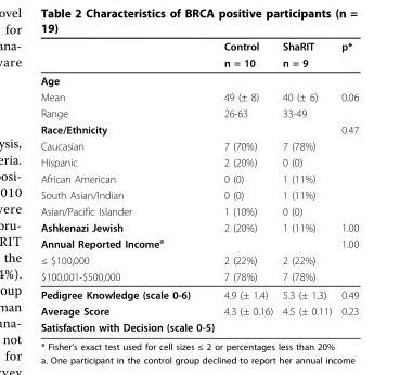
<table><thead><tr><td rowspan="2"></td><td rowspan="2">Control n = 10</td><td rowspan="2">ShaRIT n = 9</td><td rowspan="2">p*</td></tr><tr></tr></thead><tbody><tr><td colspan="4">Age</td></tr><tr><td>Mean</td><td>49 (± 8)</td><td>40 (± 6)</td><td>0.06</td></tr><tr><td>Range</td><td>26-63</td><td>33-49</td><td></td></tr><tr><td>Race/Ethnicity</td><td></td><td></td><td>0.47</td></tr><tr><td>Caucasian</td><td>7 (70%)</td><td>7 (78%)</td><td></td></tr><tr><td>Hispanic</td><td>2 (20%)</td><td>0 (0)</td><td></td></tr><tr><td>African American</td><td>0 (0)</td><td>1 (11%)</td><td></td></tr><tr><td>South Asian/Indian</td><td>0 (0)</td><td>1 (11%)</td><td></td></tr><tr><td>Asian/Pacific Islander</td><td>1 (10%)</td><td>0 (0)</td><td></td></tr><tr><td>Ashkenazi Jewish</td><td>2 (20%)</td><td>1 (11%)</td><td>1.00</td></tr><tr><td>Annual Reported Income<sup>a</sup></td><td></td><td></td><td>1.00</td></tr><tr><td>≤ $100,000</td><td>2 (22%)</td><td>2 (22%)</td><td></td></tr><tr><td>$100,001-$500,000</td><td>7 (78%)</td><td>7 (78%)</td><td></td></tr><tr><td>Pedigree Knowledge (scale 0-6)</td><td>4.9 (± 1.4)</td><td>5.3 (± 1.3)</td><td>0.49</td></tr><tr><td>Average Score</td><td>4.3 (± 0.16)</td><td>4.5 (± 0.11)</td><td>0.23</td></tr><tr><td>Satisfaction with Decision (scale 0-5)</td><td></td><td></td><td></td></tr></tbody></table>